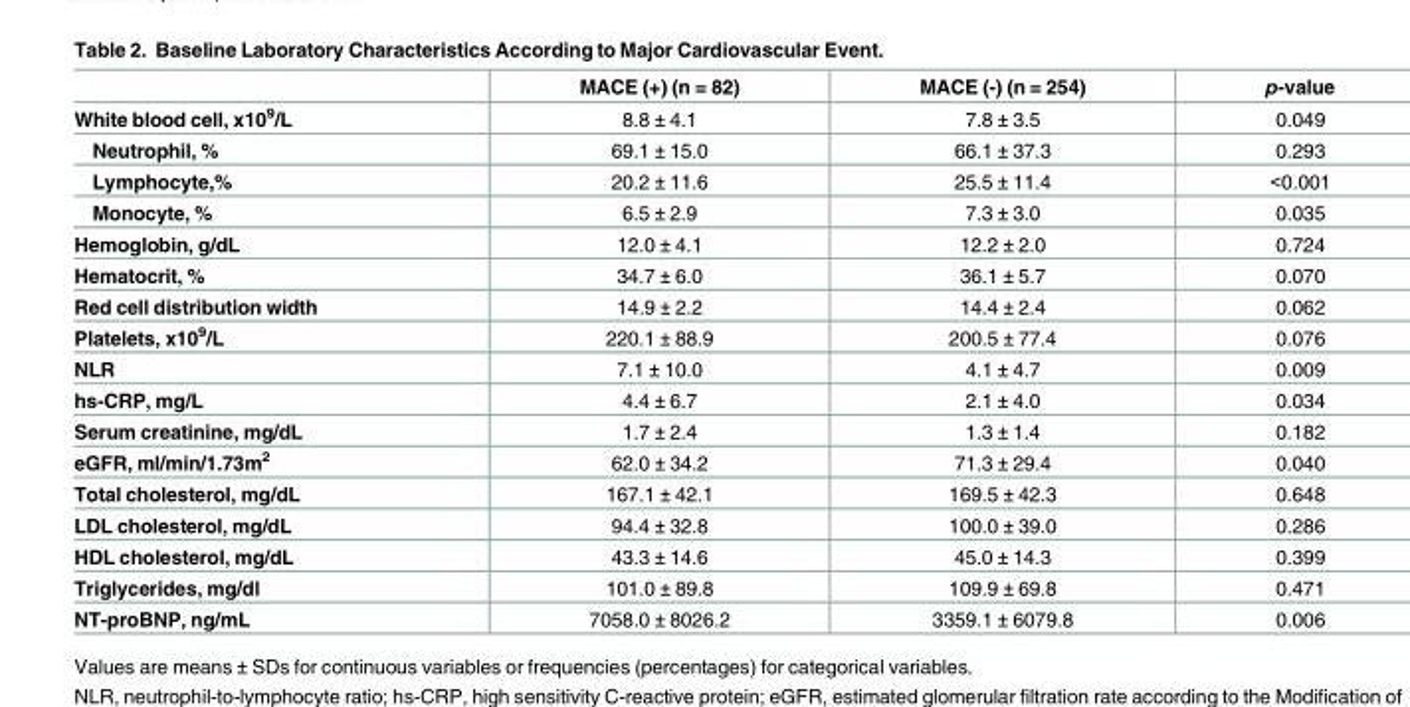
<table><thead><tr><td></td><td>MACE (+) (n = 82)</td><td>MACE (-) (n = 254)</td><td>p-value</td></tr></thead><tbody><tr><td>White blood cell, x10<sup>9</sup>/L</td><td>8.8 ± 4.1</td><td>7.8 ± 3.5</td><td>0.049</td></tr><tr><td>Neutrophil, %</td><td>69.1 ± 15.0</td><td>66.1 ± 37.3</td><td>0.293</td></tr><tr><td>Lymphocyte,%</td><td>20.2 ± 11.6</td><td>25.5 ± 11.4</td><td>&lt;0.001</td></tr><tr><td>Monocyte, %</td><td>6.5 ± 2.9</td><td>7.3 ± 3.0</td><td>0.035</td></tr><tr><td>Hemoglobin, g/dL</td><td>12.0 ± 4.1</td><td>12.2 ± 2.0</td><td>0.724</td></tr><tr><td>Hematocrit, %</td><td>34.7 ± 6.0</td><td>36.1 ± 5.7</td><td>0.070</td></tr><tr><td>Red cell distribution width</td><td>14.9 ± 2.2</td><td>14.4 ± 2.4</td><td>0.062</td></tr><tr><td>Platelets, x10<sup>9</sup>/L</td><td>220.1 ± 88.9</td><td>200.5 ± 77.4</td><td>0.076</td></tr><tr><td>NLR</td><td>7.1 ± 10.0</td><td>4.1 ± 4.7</td><td>0.009</td></tr><tr><td>hs-CRP, mg/L</td><td>4.4 ± 6.7</td><td>2.1 ± 4.0</td><td>0.034</td></tr><tr><td>Serum creatinine, mg/dL</td><td>1.7 ± 2.4</td><td>1.3 ± 1.4</td><td>0.182</td></tr><tr><td>eGFR, ml/min/1.73m<sup>2</sup></td><td>62.0 ± 34.2</td><td>71.3 ± 29.4</td><td>0.040</td></tr><tr><td>Total cholesterol, mg/dL</td><td>167.1 ± 42.1</td><td>169.5 ± 42.3</td><td>0.648</td></tr><tr><td>LDL cholesterol, mg/dL</td><td>94.4 ± 32.8</td><td>100.0 ± 39.0</td><td>0.286</td></tr><tr><td>HDL cholesterol, mg/dL</td><td>43.3 ± 14.6</td><td>45.0 ± 14.3</td><td>0.399</td></tr><tr><td>Triglycerides, mg/dl</td><td>101.0 ± 89.8</td><td>109.9 ± 69.8</td><td>0.471</td></tr><tr><td>NT-proBNP, ng/mL</td><td>7058.0 ± 8026.2</td><td>3359.1 ± 6079.8</td><td>0.006</td></tr></tbody></table>